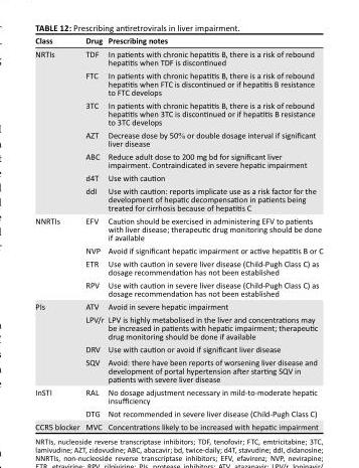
<table><thead><tr><td>Class</td><td>Drug</td><td>Prescribing notes</td></tr></thead><tbody><tr><td rowspan="7">NRTIs</td><td>TDF</td><td>In patients with chronic hepatitis B, there is a risk of rebound hepatitis when TDF is discontinued</td></tr><tr><td>FTC</td><td>In patients with chronic hepatitis B, there is a risk of rebound hepatitis when FTC is discontinued or if hepatitis B resistance to FTC develops</td></tr><tr><td>3TC</td><td>In patients with chronic hepatitis B, there is a risk of rebound hepatitis when 3TC is discontinued or if hepatitis B resistance to 3TC develops</td></tr><tr><td>AZT</td><td>Decrease dose by 50% or double dosage interval if significant liver disease</td></tr><tr><td>ABC</td><td>Reduce adult dose to 200 mg bd for significant liver impairment. Contraindicated in severe hepatic impairment</td></tr><tr><td>d4T</td><td>Use with caution</td></tr><tr><td>ddI</td><td>Use with caution: reports implicate use as a risk factor for the development of hepatic decompensation in patients being treated for cirrhosis because of hepatitis C</td></tr><tr><td rowspan="4">NNRTIs</td><td>EFV</td><td>Caution should be exercised in administering EFV to patients with liver disease; therapeutic drug monitoring should be done if available</td></tr><tr><td>NVP</td><td>Avoid if significant hepatic impairment or active hepatitis B or C</td></tr><tr><td>ETR</td><td>Use with caution in severe liver disease (Child-Pugh Class C) as dosage recommendation has not been established</td></tr><tr><td>RPV</td><td>Use with caution in severe liver disease (Child-Pugh Class C) as dosage recommendation has not been established</td></tr><tr><td rowspan="4">PIs</td><td>ATV</td><td>Avoid in severe hepatic impairment</td></tr><tr><td>LPV/r</td><td>LPV is highly metabolised in the liver and concentrations may be increased in patients with hepatic impairment; therapeutic drug monitoring should be done if available</td></tr><tr><td>DRV</td><td>Use with caution or avoid if significant liver disease</td></tr><tr><td>SQV</td><td>Avoid: there have been reports of worsening liver disease and development of portal hypertension after starting SQV in patients with severe liver disease</td></tr><tr><td rowspan="2">InSTI</td><td>RAL</td><td>No dosage adjustment necessary in mild-to-moderate hepatic insufficiency</td></tr><tr><td>DTG</td><td>Not recommended in severe liver disease (Child-Pugh Class C)</td></tr><tr><td>CCR5 blocker</td><td>MVC</td><td>Concentrations likely to be increased with hepatic impairment</td></tr></tbody></table>